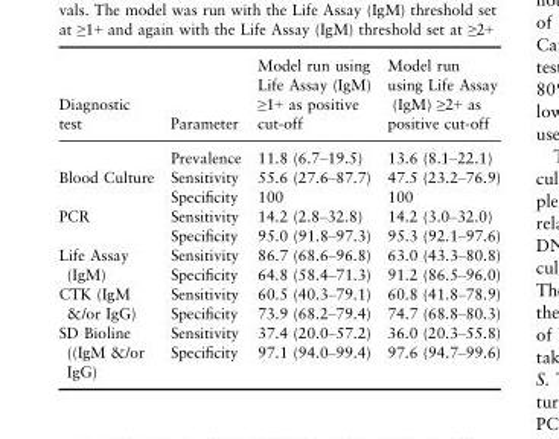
<table><thead><tr><td>Diagnostic test</td><td>Parameter</td><td>Model run using Life Assay (IgM) ≥1+ as positive cut-off</td><td>Model run using Life Assay (IgM) ≥2+ as positive cut-off</td></tr></thead><tbody><tr><td></td><td>Prevalence</td><td>11.8 (6.7–19.5)</td><td>13.6 (8.1–22.1)</td></tr><tr><td rowspan="2">Blood Culture</td><td>Sensitivity</td><td>55.6 (27.6–87.7)</td><td>47.5 (23.2–76.9)</td></tr><tr><td>Specificity</td><td>100</td><td>100</td></tr><tr><td rowspan="2">PCR</td><td>Sensitivity</td><td>14.2 (2.8–32.8)</td><td>14.2 (3.0–32.0)</td></tr><tr><td>Specificity</td><td>95.0 (91.8–97.3)</td><td>95.3 (92.1–97.6)</td></tr><tr><td rowspan="2">Life Assay (IgM)</td><td>Sensitivity</td><td>86.7 (68.6–96.8)</td><td>63.0 (43.3–80.8)</td></tr><tr><td>Specificity</td><td>64.8 (58.4–71.3)</td><td>91.2 (86.5–96.0)</td></tr><tr><td rowspan="2">CTK (IgM &amp;/or IgG)</td><td>Sensitivity</td><td>60.5 (40.3–79.1)</td><td>60.8 (41.8–78.9)</td></tr><tr><td>Specificity</td><td>73.9 (68.2–79.4)</td><td>74.7 (68.8–80.3)</td></tr><tr><td rowspan="2">SD Bioline ((IgM &amp;/or IgG)</td><td>Sensitivity</td><td>37.4 (20.0–57.2)</td><td>36.0 (20.3–55.8)</td></tr><tr><td>Specificity</td><td>97.1 (94.0–99.4)</td><td>97.6 (94.7–99.6)</td></tr></tbody></table>